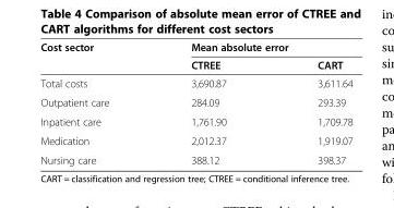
<table><thead><tr><td rowspan="2">Cost sector</td><td colspan="2">Mean absolute error</td></tr><tr><td>CTREE</td><td>CART</td></tr></thead><tbody><tr><td>Total costs</td><td>3,690.87</td><td>3,611.64</td></tr><tr><td>Outpatient care</td><td>284.09</td><td>293.39</td></tr><tr><td>Inpatient care</td><td>1,761.90</td><td>1,709.78</td></tr><tr><td>Medication</td><td>2,012.37</td><td>1,919.07</td></tr><tr><td>Nursing care</td><td>388.12</td><td>398.37</td></tr></tbody></table>